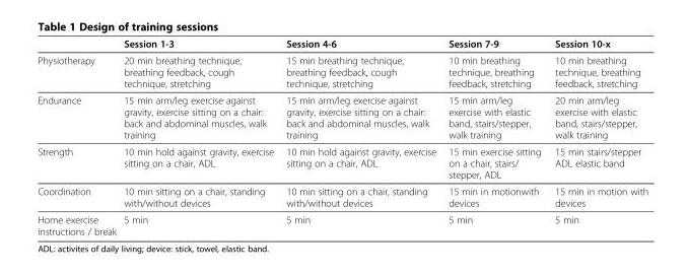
<table><thead><tr><td></td><td>Session 1-3</td><td>Session 4-6</td><td>Session 7-9</td><td>Session 10-x</td></tr></thead><tbody><tr><td>Physiotherapy</td><td>20 min breathing technique, breathing feedback, cough technique, stretching</td><td>15 min breathing technique, breathing feedback, cough technique, stretching</td><td>10 min breathing technique, breathing feedback, stretching</td><td>10 min breathing technique, breathing feedback, stretching</td></tr><tr><td>Endurance</td><td>15 min arm/leg exercise against gravity, exercise sitting on a chair: back and abdominal muscles, walk training</td><td>15 min arm/leg exercise against gravity, exercise sitting on a chair: back and abdominal muscles, walk training</td><td>15 min arm/leg exercise with elastic band, stairs/stepper, walk training</td><td>20 min arm/leg exercise with elastic band, stairs/stepper, walk training</td></tr><tr><td>Strength</td><td>10 min hold against gravity, exercise sitting on a chair, ADL</td><td>10 min hold against gravity, exercise sitting on a chair, ADL</td><td>15 min exercise sitting on a chair, stairs/ stepper, ADL</td><td>15 min stairs/stepper ADL elastic band</td></tr><tr><td>Coordination</td><td>10 min sitting on a chair, standing with/without devices</td><td>10 min sitting on a chair, standing with/without devices</td><td>15 min in motionwith devices</td><td>15 min in motion with devices</td></tr><tr><td>Home exercise instructions / break</td><td>5 min</td><td>5 min</td><td>5 min</td><td>5 min</td></tr></tbody></table>